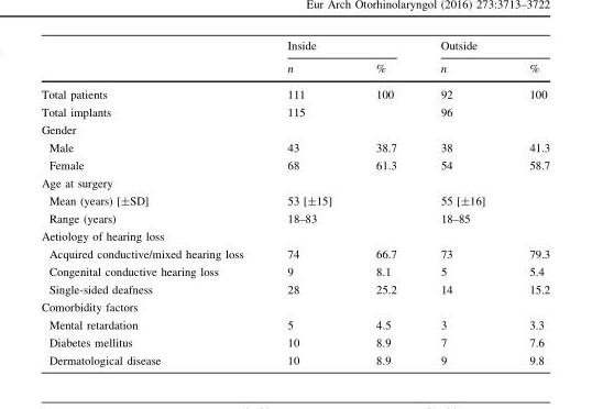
<table><thead><tr><td rowspan="2"></td><td colspan="2">Inside</td><td colspan="2">Outside</td></tr><tr><td>n</td><td>%</td><td>n</td><td>%</td></tr></thead><tbody><tr><td>Total patients</td><td>111</td><td>100</td><td>92</td><td>100</td></tr><tr><td>Total implants</td><td>115</td><td></td><td>96</td><td></td></tr><tr><td colspan="5">Gender</td></tr><tr><td>Male</td><td>43</td><td>38.7</td><td>38</td><td>41.3</td></tr><tr><td>Female</td><td>68</td><td>61.3</td><td>54</td><td>58.7</td></tr><tr><td colspan="5">Age at surgery</td></tr><tr><td>Mean (years) [±SD]</td><td>53 [±15]</td><td></td><td>55 [±16]</td><td></td></tr><tr><td>Range (years)</td><td>18–83</td><td></td><td>18–85</td><td></td></tr><tr><td colspan="5">Aetiology of hearing loss</td></tr><tr><td>Acquired conductive/mixed hearing loss</td><td>74</td><td>66.7</td><td>73</td><td>79.3</td></tr><tr><td>Congenital conductive hearing loss</td><td>9</td><td>8.1</td><td>5</td><td>5.4</td></tr><tr><td>Single-sided deafness</td><td>28</td><td>25.2</td><td>14</td><td>15.2</td></tr><tr><td colspan="5">Comorbidity factors</td></tr><tr><td>Mental retardation</td><td>5</td><td>4.5</td><td>3</td><td>3.3</td></tr><tr><td>Diabetes mellitus</td><td>10</td><td>8.9</td><td>7</td><td>7.6</td></tr><tr><td>Dermatological disease</td><td>10</td><td>8.9</td><td>9</td><td>9.8</td></tr></tbody></table>